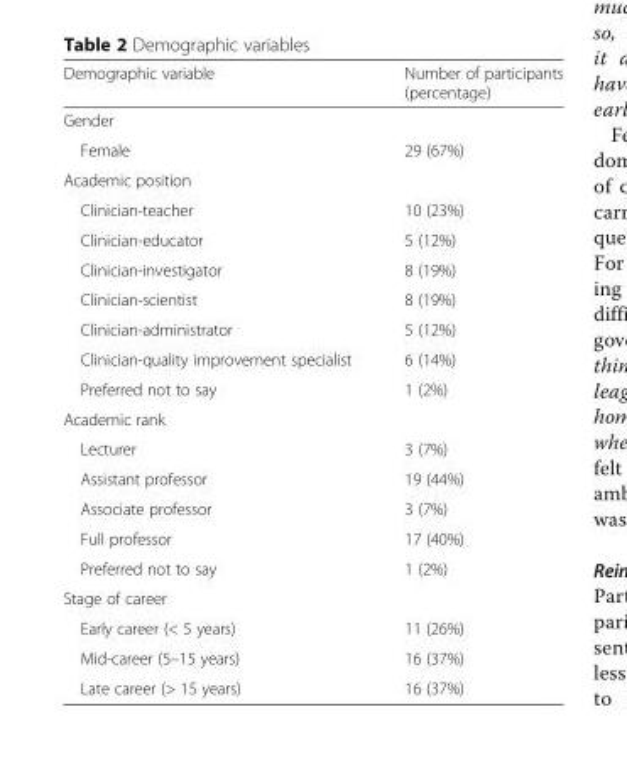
<table><thead><tr><td>Demographic variable</td><td>Number of participants (percentage)</td></tr></thead><tbody><tr><td colspan="2">Gender</td></tr><tr><td>Female</td><td>29 (67%)</td></tr><tr><td colspan="2">Academic position</td></tr><tr><td>Clinician-teacher</td><td>10 (23%)</td></tr><tr><td>Clinician-educator</td><td>5 (12%)</td></tr><tr><td>Clinician-investigator</td><td>8 (19%)</td></tr><tr><td>Clinician-scientist</td><td>8 (19%)</td></tr><tr><td>Clinician-administrator</td><td>5 (12%)</td></tr><tr><td>Clinician-quality improvement specialist</td><td>6 (14%)</td></tr><tr><td>Preferred not to say</td><td>1 (2%)</td></tr><tr><td colspan="2">Academic rank</td></tr><tr><td>Lecturer</td><td>3 (7%)</td></tr><tr><td>Assistant professor</td><td>19 (44%)</td></tr><tr><td>Associate professor</td><td>3 (7%)</td></tr><tr><td>Full professor</td><td>17 (40%)</td></tr><tr><td>Preferred not to say</td><td>1 (2%)</td></tr><tr><td colspan="2">Stage of career</td></tr><tr><td>Early career (&lt; 5 years)</td><td>11 (26%)</td></tr><tr><td>Mid-career (5–15 years)</td><td>16 (37%)</td></tr><tr><td>Late career (&gt; 15 years)</td><td>16 (37%)</td></tr></tbody></table>